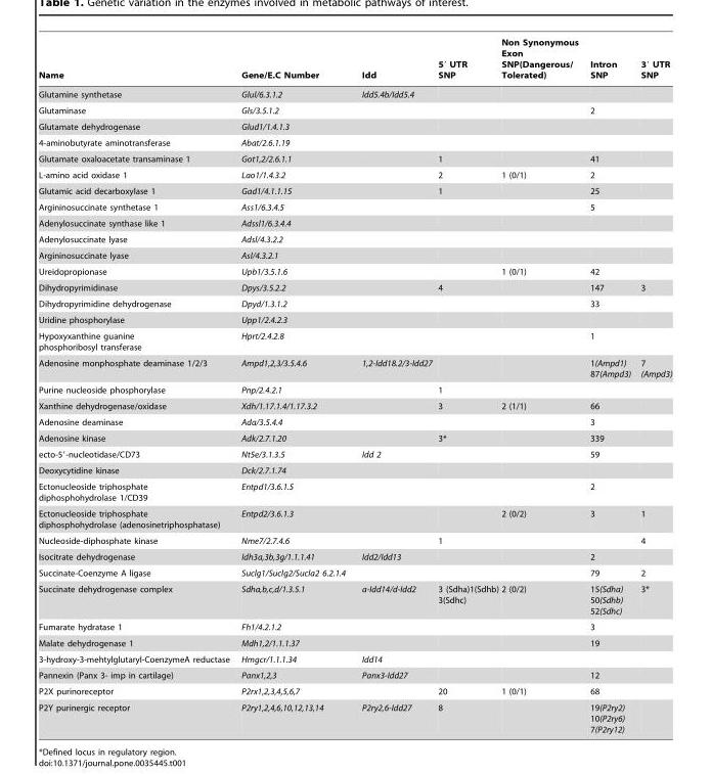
<table><thead><tr><td>Name</td><td>Gene/E.C Number</td><td>Idd</td><td>5′ UTR SNP</td><td>Non Synonymous Exon SNP(Dangerous/ Tolerated)</td><td>Intron SNP</td><td>3′ UTR SNP</td></tr></thead><tbody><tr><td>Glutamine synthetase</td><td>Glul/6.3.1.2</td><td>Idd5.4b/Idd5.4</td><td></td><td></td><td></td><td></td></tr><tr><td>Glutaminase</td><td>Gls/3.5.1.2</td><td></td><td></td><td></td><td>2</td><td></td></tr><tr><td>Glutamate dehydrogenase</td><td>Glud1/1.4.1.3</td><td></td><td></td><td></td><td></td><td></td></tr><tr><td>4-aminobutyrate aminotransferase</td><td>Abat/2.6.1.19</td><td></td><td></td><td></td><td></td><td></td></tr><tr><td>Glutamate oxaloacetate transaminase 1</td><td>Got1,2/2.6.1.1</td><td></td><td>1</td><td></td><td>41</td><td></td></tr><tr><td>L-amino acid oxidase 1</td><td>Lao1/1.4.3.2</td><td></td><td>2</td><td>1 (0/1)</td><td>2</td><td></td></tr><tr><td>Glutamic acid decarboxylase 1</td><td>Gad1/4.1.1.15</td><td></td><td>1</td><td></td><td>25</td><td></td></tr><tr><td>Argininosuccinate synthetase 1</td><td>Ass1/6.3.4.5</td><td></td><td></td><td></td><td>5</td><td></td></tr><tr><td>Adenylosuccinate synthase like 1</td><td>Adssl1/6.3.4.4</td><td></td><td></td><td></td><td></td><td></td></tr><tr><td>Adenylosuccinate lyase</td><td>Adsl/4.3.2.2</td><td></td><td></td><td></td><td></td><td></td></tr><tr><td>Argininosuccinate lyase</td><td>Asl/4.3.2.1</td><td></td><td></td><td></td><td></td><td></td></tr><tr><td>Ureidopropionase</td><td>Upb1/3.5.1.6</td><td></td><td></td><td>1 (0/1)</td><td>42</td><td></td></tr><tr><td>Dihydropyrimidinase</td><td>Dpys/3.5.2.2</td><td></td><td>4</td><td></td><td>147</td><td>3</td></tr><tr><td>Dihydropyrimidine dehydrogenase</td><td>Dpyd/1.3.1.2</td><td></td><td></td><td></td><td>33</td><td></td></tr><tr><td>Uridine phosphorylase</td><td>Upp1/2.4.2.3</td><td></td><td></td><td></td><td></td><td></td></tr><tr><td>Hypoxyxanthine guanine phosphoribosyl transferase</td><td>Hprt/2.4.2.8</td><td></td><td></td><td></td><td>1</td><td></td></tr><tr><td>Adenosine monphosphate deaminase 1/2/3</td><td>Ampd1,2,3/3.5.4.6</td><td>1,2-Idd18.2/3-Idd27</td><td></td><td></td><td>1(Ampd1) 87(Ampd3)</td><td>7 (Ampd3)</td></tr><tr><td>Purine nucleoside phosphorylase</td><td>Pnp/2.4.2.1</td><td></td><td>1</td><td></td><td></td><td></td></tr><tr><td>Xanthine dehydrogenase/oxidase</td><td>Xdh/1.17.1.4/1.17.3.2</td><td></td><td>3</td><td>2 (1/1)</td><td>66</td><td></td></tr><tr><td>Adenosine deaminase</td><td>Ada/3.5.4.4</td><td></td><td></td><td></td><td>3</td><td></td></tr><tr><td>Adenosine kinase</td><td>Adk/2.7.1.20</td><td></td><td>3*</td><td></td><td>339</td><td></td></tr><tr><td>ecto-5′-nucleotidase/CD73</td><td>Nt5e/3.1.3.5</td><td>Idd 2</td><td></td><td></td><td>59</td><td></td></tr><tr><td>Deoxycytidine kinase</td><td>Dck/2.7.1.74</td><td></td><td></td><td></td><td></td><td></td></tr><tr><td>Ectonucleoside triphosphate diphosphohydrolase 1/CD39</td><td>Entpd1/3.6.1.5</td><td></td><td></td><td></td><td>2</td><td></td></tr><tr><td>Ectonucleoside triphosphate diphosphohydrolase (adenosinetriphosphatase)</td><td>Entpd2/3.6.1.3</td><td></td><td></td><td>2 (0/2)</td><td>3</td><td>1</td></tr><tr><td>Nucleoside-diphosphate kinase</td><td>Nme7/2.7.4.6</td><td></td><td>1</td><td></td><td></td><td>4</td></tr><tr><td>Isocitrate dehydrogenase</td><td>ldh3a,3b,3g/1.1.1.41</td><td>Idd2/Idd13</td><td></td><td></td><td>2</td><td></td></tr><tr><td>Succinate-Coenzyme A ligase</td><td>Suclg1/Suclg2/Sucla2 6.2.1.4</td><td></td><td></td><td></td><td>79</td><td>2</td></tr><tr><td>Succinate dehydrogenase complex</td><td>Sdha,b,c,d/1.3.5.1</td><td>a-Idd14/d-Idd2</td><td>3 (Sdha)1(Sdhb) 3(Sdhc)</td><td>2 (0/2)</td><td>15(Sdha) 50(Sdhb) 52(Sdhc)</td><td>3*</td></tr><tr><td>Fumarate hydratase 1</td><td>Fh1/4.2.1.2</td><td></td><td></td><td></td><td>3</td><td></td></tr><tr><td>Malate dehydrogenase 1</td><td>Mdh1,2/1.1.1.37</td><td></td><td></td><td></td><td>19</td><td></td></tr><tr><td>3-hydroxy-3-mehtylglutaryl-CoenzymeA reductase</td><td>Hmgcr/1.1.1.34</td><td>Idd14</td><td></td><td></td><td></td><td></td></tr><tr><td>Pannexin (Panx 3- imp in cartilage)</td><td>Panx1,2,3</td><td>Panx3-Idd27</td><td></td><td></td><td>12</td><td></td></tr><tr><td>P2X purinoreceptor</td><td>P2rx1,2,3,4,5,6,7</td><td></td><td>20</td><td>1 (0/1)</td><td>68</td><td></td></tr><tr><td>P2Y purinergic receptor</td><td>P2ry1,2,4,6,10,12,13,14</td><td>P2ry2,6-Idd27</td><td>8</td><td></td><td>19(P2ry2) 10(P2ry6) 7(P2ry12)</td><td></td></tr></tbody></table>